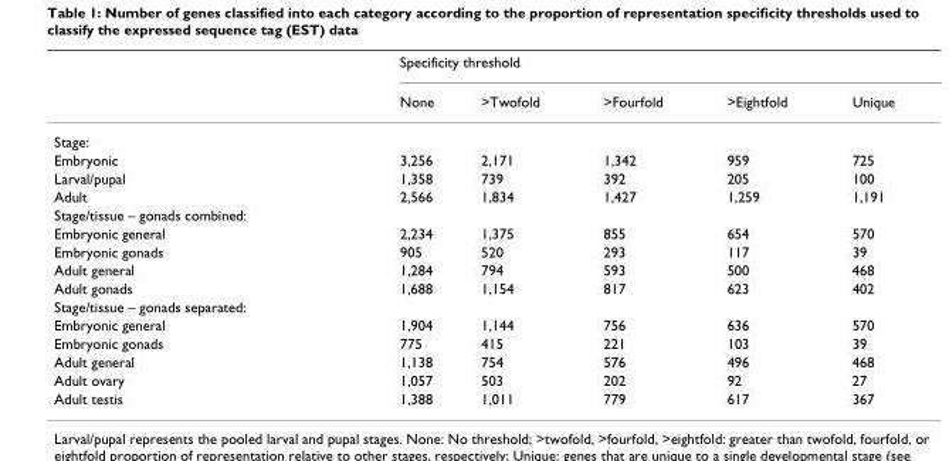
<table><thead><tr><td rowspan="2"></td><td colspan="5">Specificity threshold</td></tr><tr><td>None</td><td>&gt;Twofold</td><td>&gt;Fourfold</td><td>&gt;Eightfold</td><td>Unique</td></tr></thead><tbody><tr><td colspan="6">Stage:</td></tr><tr><td>Embryonic</td><td>3,256</td><td>2,171</td><td>1,342</td><td>959</td><td>725</td></tr><tr><td>Larval/pupal</td><td>1,358</td><td>739</td><td>392</td><td>205</td><td>100</td></tr><tr><td>Adult</td><td>2,566</td><td>1,834</td><td>1,427</td><td>1,259</td><td>1,191</td></tr><tr><td colspan="6">Stage/tissue – gonads combined:</td></tr><tr><td>Embryonic general</td><td>2,234</td><td>1,375</td><td>855</td><td>654</td><td>570</td></tr><tr><td>Embryonic gonads</td><td>905</td><td>520</td><td>293</td><td>117</td><td>39</td></tr><tr><td>Adult general</td><td>1,284</td><td>794</td><td>593</td><td>500</td><td>468</td></tr><tr><td>Adult gonads</td><td>1,688</td><td>1,154</td><td>817</td><td>623</td><td>402</td></tr><tr><td colspan="6">Stage/tissue – gonads separated:</td></tr><tr><td>Embryonic general</td><td>1,904</td><td>1,144</td><td>756</td><td>636</td><td>570</td></tr><tr><td>Embryonic gonads</td><td>775</td><td>415</td><td>221</td><td>103</td><td>39</td></tr><tr><td>Adult general</td><td>1,138</td><td>754</td><td>576</td><td>496</td><td>468</td></tr><tr><td>Adult ovary</td><td>1,057</td><td>503</td><td>202</td><td>92</td><td>27</td></tr><tr><td>Adult testis</td><td>1,388</td><td>1,011</td><td>779</td><td>617</td><td>367</td></tr></tbody></table>